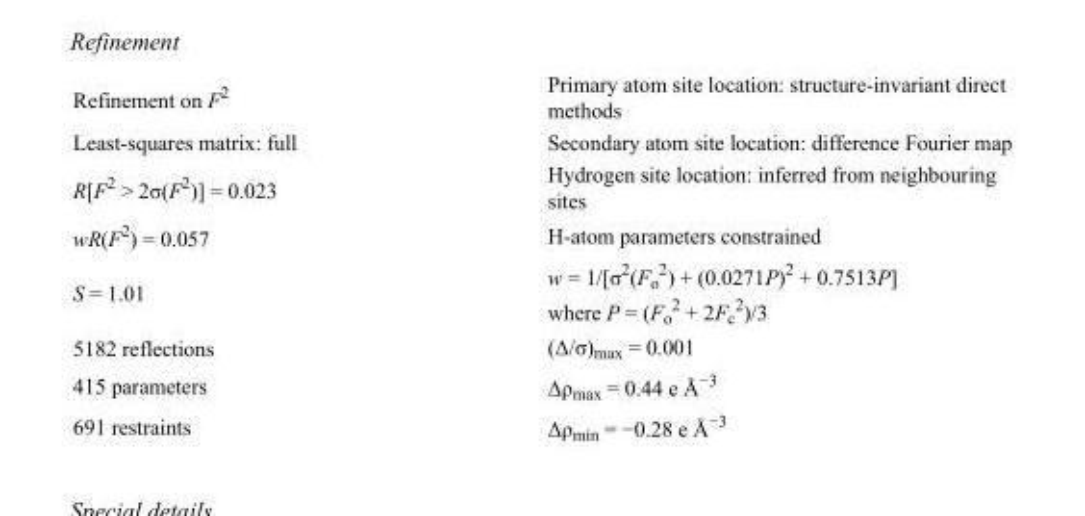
<table><tbody><tr><td>Refinement on F<sup>2</sup></td><td>Primary atom site location: structure-invariant direct methods</td></tr><tr><td>Least-squares matrix: full</td><td>Secondary atom site location: difference Fourier map</td></tr><tr><td>R[F<sup>2</sup> &gt; 2σ(F<sup>2</sup>)] = 0.023</td><td>Hydrogen site location: inferred from neighbouring sites</td></tr><tr><td>wR(F<sup>2</sup>) = 0.057</td><td>H-atom parameters constrained</td></tr><tr><td>S = 1.01</td><td>w = 1/[σ<sup>2</sup>(F<sub>o</sub> <sup>2</sup>) + (0.0271P)<sup>2</sup> + 0.7513P] where P = (F<sub>o</sub> <sup>2</sup> + 2F<sub>c</sub> <sup>2</sup>)/3</td></tr><tr><td>5182 reflections</td><td>(Δ/σ)<sub>max</sub> = 0.001</td></tr><tr><td>415 parameters</td><td>Δρ<sub>max</sub> = 0.44 e Å<sup>−3</sup></td></tr><tr><td>691 restraints</td><td>Δρ<sub>min</sub> = −0.28 e Å<sup>−3</sup></td></tr></tbody></table>